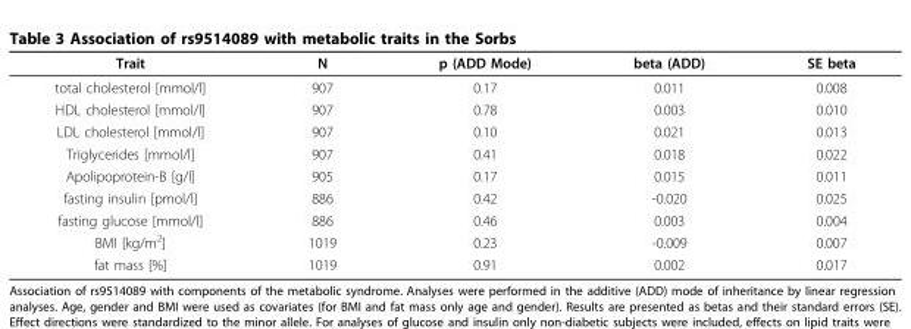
<table><thead><tr><td>Trait</td><td>N</td><td>p (ADD Mode)</td><td>beta (ADD)</td><td>SE beta</td></tr></thead><tbody><tr><td>total cholesterol [mmol/l]</td><td>907</td><td>0.17</td><td>0.011</td><td>0.008</td></tr><tr><td>HDL cholesterol [mmol/l]</td><td>907</td><td>0.78</td><td>0.003</td><td>0.010</td></tr><tr><td>LDL cholesterol [mmol/l]</td><td>907</td><td>0.10</td><td>0.021</td><td>0.013</td></tr><tr><td>Triglycerides [mmol/l]</td><td>907</td><td>0.41</td><td>0.018</td><td>0.022</td></tr><tr><td>Apolipoprotein-B [g/l]</td><td>905</td><td>0.17</td><td>0.015</td><td>0.011</td></tr><tr><td>fasting insulin [pmol/l]</td><td>886</td><td>0.42</td><td>-0.020</td><td>0.025</td></tr><tr><td>fasting glucose [mmol/l]</td><td>886</td><td>0.46</td><td>0.003</td><td>0.004</td></tr><tr><td>BMI [kg/m<sup>2</sup>]</td><td>1019</td><td>0.23</td><td>-0.009</td><td>0.007</td></tr><tr><td>fat mass [%]</td><td>1019</td><td>0.91</td><td>0.002</td><td>0.017</td></tr></tbody></table>